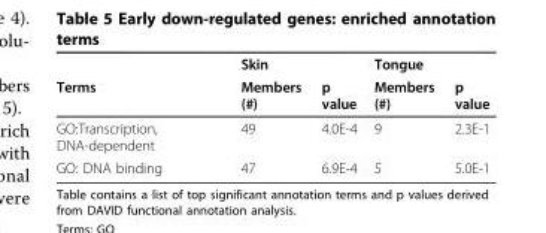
<table><thead><tr><td rowspan="2">Terms</td><td rowspan="2">Skin Members (#)</td><td rowspan="2">p value</td><td rowspan="2">Tongue Members (#)</td><td rowspan="2">p value</td></tr><tr></tr></thead><tbody><tr><td>GO:Transcription, DNA-dependent</td><td>49</td><td>4.0E-4</td><td>9</td><td>2.3E-1</td></tr><tr><td>GO: DNA binding</td><td>47</td><td>6.9E-4</td><td>5</td><td>5.0E-1</td></tr></tbody></table>